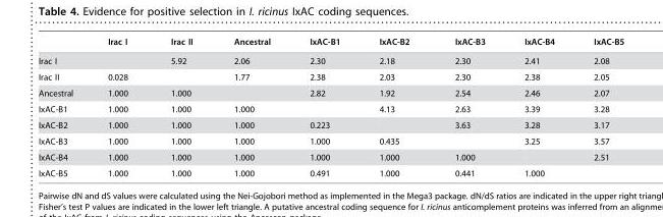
<table><thead><tr><td></td><td>Irac I</td><td>Irac II</td><td>Ancestral</td><td>IxAC-B1</td><td>IxAC-B2</td><td>IxAC-B3</td><td>IxAC-B4</td><td>IxAC-B5</td></tr></thead><tbody><tr><td>Irac I</td><td></td><td>5.92</td><td>2.06</td><td>2.30</td><td>2.18</td><td>2.30</td><td>2.41</td><td>2.08</td></tr><tr><td>Irac II</td><td>0.028</td><td></td><td>1.77</td><td>2.38</td><td>2.03</td><td>2.30</td><td>2.38</td><td>2.05</td></tr><tr><td>Ancestral</td><td>1.000</td><td>1.000</td><td></td><td>2.82</td><td>1.92</td><td>2.54</td><td>2.46</td><td>2.07</td></tr><tr><td>IxAC-B1</td><td>1.000</td><td>1.000</td><td>1.000</td><td></td><td>4.13</td><td>2.63</td><td>3.39</td><td>3.28</td></tr><tr><td>IxAC-B2</td><td>1.000</td><td>1.000</td><td>1.000</td><td>0.223</td><td></td><td>3.63</td><td>3.28</td><td>3.17</td></tr><tr><td>IxAC-B3</td><td>1.000</td><td>1.000</td><td>1.000</td><td>1.000</td><td>0.435</td><td></td><td>3.25</td><td>3.57</td></tr><tr><td>IxAC-B4</td><td>1.000</td><td>1.000</td><td>1.000</td><td>1.000</td><td>1.000</td><td>1.000</td><td></td><td>2.51</td></tr><tr><td>IxAC-B5</td><td>1.000</td><td>1.000</td><td>1.000</td><td>0.491</td><td>1.000</td><td>0.441</td><td>1.000</td><td></td></tr></tbody></table>